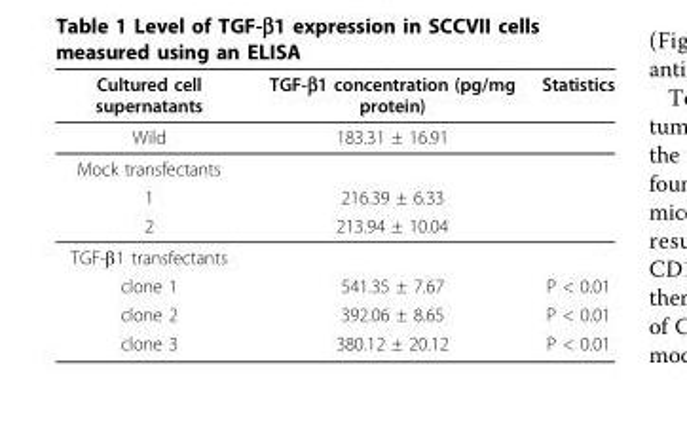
<table><thead><tr><td>Cultured cell supernatants</td><td>TGF-β1 concentration (pg/mg protein)</td><td>Statistics</td></tr></thead><tbody><tr><td>Wild</td><td>183.31 ± 16.91</td><td></td></tr><tr><td colspan="3">Mock transfectants</td></tr><tr><td>1</td><td>216.39 ± 6.33</td><td></td></tr><tr><td>2</td><td>213.94 ± 10.04</td><td></td></tr><tr><td colspan="3">TGF-β1 transfectants</td></tr><tr><td>clone 1</td><td>541.35 ± 7.67</td><td>P &lt; 0.01</td></tr><tr><td>clone 2</td><td>392.06 ± 8.65</td><td>P &lt; 0.01</td></tr><tr><td>clone 3</td><td>380.12 ± 20.12</td><td>P &lt; 0.01</td></tr></tbody></table>